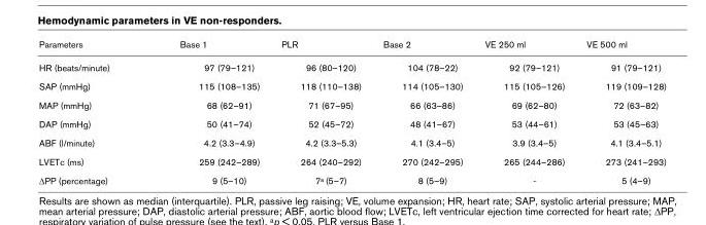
<table><thead><tr><td>Parameters</td><td>Base 1</td><td>PLR</td><td>Base 2</td><td>VE 250 ml</td><td>VE 500 ml</td></tr></thead><tbody><tr><td>HR (beats/minute)</td><td>97 (79–121)</td><td>96 (80–120)</td><td>104 (78–22)</td><td>92 (79–121)</td><td>91 (79–121)</td></tr><tr><td>SAP (mmHg)</td><td>115 (108–135)</td><td>118 (110–138)</td><td>114 (105–130)</td><td>115 (105–126)</td><td>119 (109–128)</td></tr><tr><td>MAP (mmHg)</td><td>68 (62–91)</td><td>71 (67–95)</td><td>66 (63–86)</td><td>69 (62–80)</td><td>72 (63–82)</td></tr><tr><td>DAP (mmHg)</td><td>50 (41–74)</td><td>52 (45–72)</td><td>48 (41–67)</td><td>53 (44–61)</td><td>53 (45–63)</td></tr><tr><td>ABF (l/minute)</td><td>4.2 (3.3–4.9)</td><td>4.2 (3.3–5.3)</td><td>4.1 (3.4–5)</td><td>3.9 (3.4–5)</td><td>4.1 (3.4–5.1)</td></tr><tr><td>LVETc (ms)</td><td>259 (242–289)</td><td>264 (240–292)</td><td>270 (242–295)</td><td>265 (244–286)</td><td>273 (241–293)</td></tr><tr><td>∆PP (percentage)</td><td>9 (5–10)</td><td>7a (5–7)</td><td>8 (5–9)</td><td>-</td><td>5 (4–9)</td></tr></tbody></table>